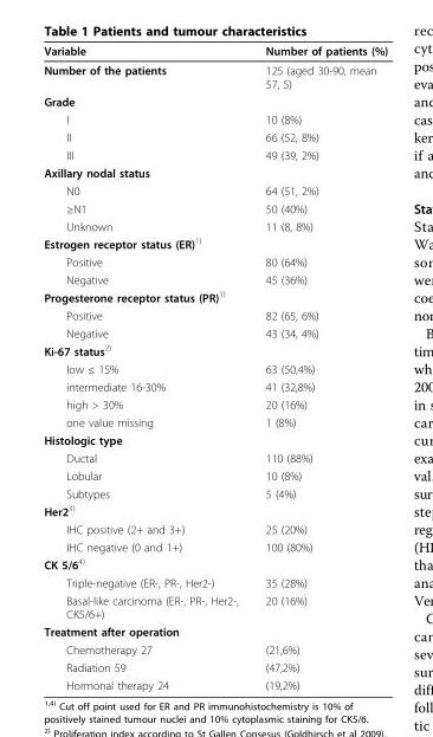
<table><thead><tr><td>Variable</td><td>Number of patients (%)</td></tr></thead><tbody><tr><td>Number of the patients</td><td>125 (aged 30-90, mean 57, 5)</td></tr><tr><td colspan="2">Grade</td></tr><tr><td>I</td><td>10 (8%)</td></tr><tr><td>II</td><td>66 (52, 8%)</td></tr><tr><td>III</td><td>49 (39, 2%)</td></tr><tr><td colspan="2">Axillary nodal status</td></tr><tr><td>N0</td><td>64 (51, 2%)</td></tr><tr><td>≥N1</td><td>50 (40%)</td></tr><tr><td>Unknown</td><td>11 (8, 8%)</td></tr><tr><td colspan="2">Estrogen receptor status (ER)<sup>1)</sup></td></tr><tr><td>Positive</td><td>80 (64%)</td></tr><tr><td>Negative</td><td>45 (36%)</td></tr><tr><td colspan="2">Progesterone receptor status (PR)<sup>1)</sup></td></tr><tr><td>Positive</td><td>82 (65, 6%)</td></tr><tr><td>Negative</td><td>43 (34, 4%)</td></tr><tr><td colspan="2">Ki-67 status<sup>2)</sup></td></tr><tr><td>low ≤ 15%</td><td>63 (50,4%)</td></tr><tr><td>intermediate 16-30%</td><td>41 (32,8%)</td></tr><tr><td>high &gt; 30%</td><td>20 (16%)</td></tr><tr><td>one value missing</td><td>1 (8%)</td></tr><tr><td colspan="2">Histologic type</td></tr><tr><td>Ductal</td><td>110 (88%)</td></tr><tr><td>Lobular</td><td>10 (8%)</td></tr><tr><td>Subtypes</td><td>5 (4%)</td></tr><tr><td colspan="2">Her2<sup>3)</sup></td></tr><tr><td>IHC positive (2+ and 3+)</td><td>25 (20%)</td></tr><tr><td>IHC negative (0 and 1+)</td><td>100 (80%)</td></tr><tr><td colspan="2">CK 5/6<sup>4)</sup></td></tr><tr><td>Triple-negative (ER-, PR-, Her2-)</td><td>35 (28%)</td></tr><tr><td>Basal-like carcinoma (ER-, PR-, Her2-, CK5/6+)</td><td>20 (16%)</td></tr><tr><td colspan="2">Treatment after operation</td></tr><tr><td>Chemotherapy 27</td><td>(21,6%)</td></tr><tr><td>Radiation 59</td><td>(47,2%)</td></tr><tr><td>Hormonal therapy 24</td><td>(19,2%)</td></tr></tbody></table>